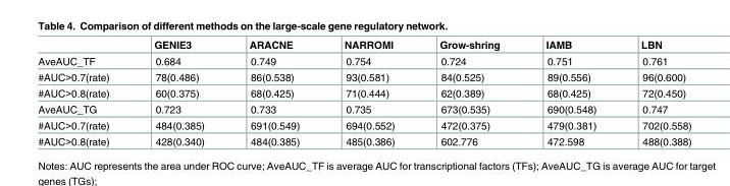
<table><thead><tr><td></td><td>GENIE3</td><td>ARACNE</td><td>NARROMI</td><td>Grow-shring</td><td>IAMB</td><td>LBN</td></tr></thead><tbody><tr><td>AveAUC_TF</td><td>0.684</td><td>0.749</td><td>0.754</td><td>0.724</td><td>0.751</td><td>0.761</td></tr><tr><td>#AUC&gt;0.7(rate)</td><td>78(0.486)</td><td>86(0.538)</td><td>93(0.581)</td><td>84(0.525)</td><td>89(0.556)</td><td>96(0.600)</td></tr><tr><td>#AUC&gt;0.8(rate)</td><td>60(0.375)</td><td>68(0.425)</td><td>71(0.444)</td><td>62(0.389)</td><td>68(0.425)</td><td>72(0.450)</td></tr><tr><td>AveAUC_TG</td><td>0.723</td><td>0.733</td><td>0.735</td><td>673(0.535)</td><td>690(0.548)</td><td>0.747</td></tr><tr><td>#AUC&gt;0.7(rate)</td><td>484(0.385)</td><td>691(0.549)</td><td>694(0.552)</td><td>472(0.375)</td><td>479(0.381)</td><td>702(0.558)</td></tr><tr><td>#AUC&gt;0.8(rate)</td><td>428(0.340)</td><td>484(0.385)</td><td>485(0.386)</td><td>602.776</td><td>472.598</td><td>488(0.388)</td></tr></tbody></table>